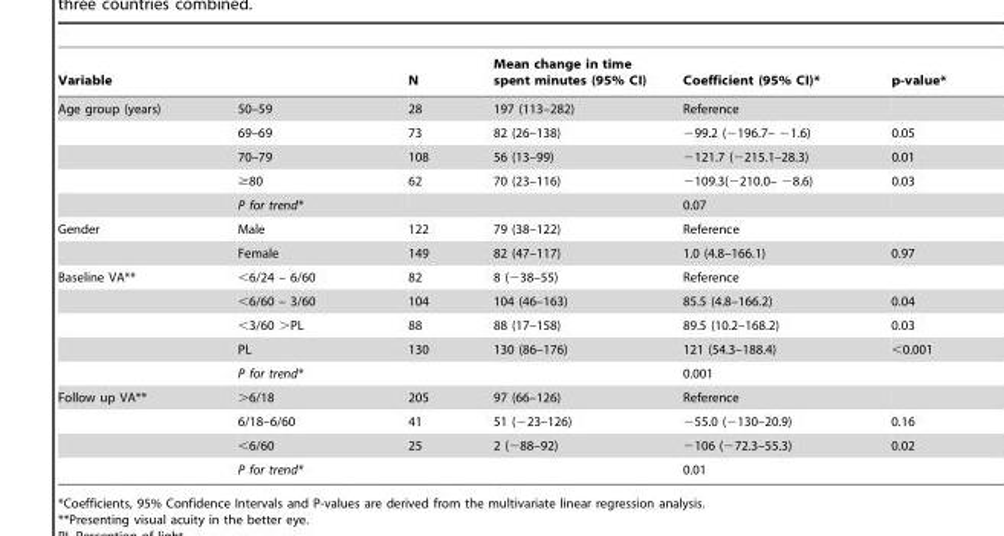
<table><thead><tr><td>Variable</td><td></td><td>N</td><td>Mean change in time spent minutes (95% CI)</td><td>Coefficient (95% CI)*</td><td>p-value*</td></tr></thead><tbody><tr><td rowspan="5">Age group (years)</td><td>50–59</td><td>28</td><td>197 (113–282)</td><td>Reference</td><td></td></tr><tr><td>69–69</td><td>73</td><td>82 (26–138)</td><td>−99.2 (−196.7– −1.6)</td><td>0.05</td></tr><tr><td>70–79</td><td>108</td><td>56 (13–99)</td><td>−121.7 (−215.1–28.3)</td><td>0.01</td></tr><tr><td>≥80</td><td>62</td><td>70 (23–116)</td><td>−109.3(−210.0– −8.6)</td><td>0.03</td></tr><tr><td>P for trend*</td><td></td><td></td><td>0.07</td><td></td></tr><tr><td rowspan="2">Gender</td><td>Male</td><td>122</td><td>79 (38–122)</td><td>Reference</td><td></td></tr><tr><td>Female</td><td>149</td><td>82 (47–117)</td><td>1.0 (4.8–166.1)</td><td>0.97</td></tr><tr><td rowspan="5">Baseline VA**</td><td>&lt;6/24 – 6/60</td><td>82</td><td>8 (−38–55)</td><td>Reference</td><td></td></tr><tr><td>&lt;6/60 – 3/60</td><td>104</td><td>104 (46–163)</td><td>85.5 (4.8–166.2)</td><td>0.04</td></tr><tr><td>&lt;3/60 &gt;PL</td><td>88</td><td>88 (17–158)</td><td>89.5 (10.2–168.2)</td><td>0.03</td></tr><tr><td>PL</td><td>130</td><td>130 (86–176)</td><td>121 (54.3–188.4)</td><td>&lt;0.001</td></tr><tr><td>P for trend*</td><td></td><td></td><td>0.001</td><td></td></tr><tr><td rowspan="4">Follow up VA**</td><td>&gt;6/18</td><td>205</td><td>97 (66–126)</td><td>Reference</td><td></td></tr><tr><td>6/18–6/60</td><td>41</td><td>51 (−23–126)</td><td>−55.0 (−130–20.9)</td><td>0.16</td></tr><tr><td>&lt;6/60</td><td>25</td><td>2 (−88–92)</td><td>−106 (−72.3–55.3)</td><td>0.02</td></tr><tr><td>P for trend*</td><td></td><td></td><td>0.01</td><td></td></tr></tbody></table>